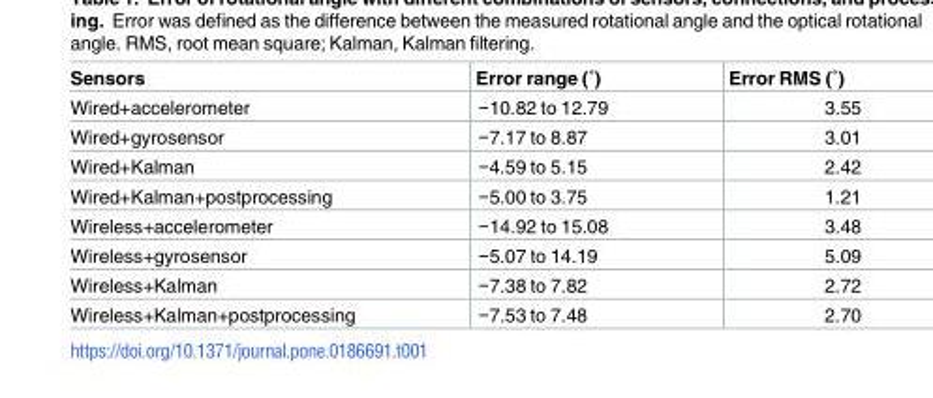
<table><thead><tr><td>Sensors</td><td>Error range (˚)</td><td>Error RMS (˚)</td></tr></thead><tbody><tr><td>Wired+accelerometer</td><td>−10.82 to 12.79</td><td>3.55</td></tr><tr><td>Wired+gyrosensor</td><td>−7.17 to 8.87</td><td>3.01</td></tr><tr><td>Wired+Kalman</td><td>−4.59 to 5.15</td><td>2.42</td></tr><tr><td>Wired+Kalman+postprocessing</td><td>−5.00 to 3.75</td><td>1.21</td></tr><tr><td>Wireless+accelerometer</td><td>−14.92 to 15.08</td><td>3.48</td></tr><tr><td>Wireless+gyrosensor</td><td>−5.07 to 14.19</td><td>5.09</td></tr><tr><td>Wireless+Kalman</td><td>−7.38 to 7.82</td><td>2.72</td></tr><tr><td>Wireless+Kalman+postprocessing</td><td>−7.53 to 7.48</td><td>2.70</td></tr></tbody></table>